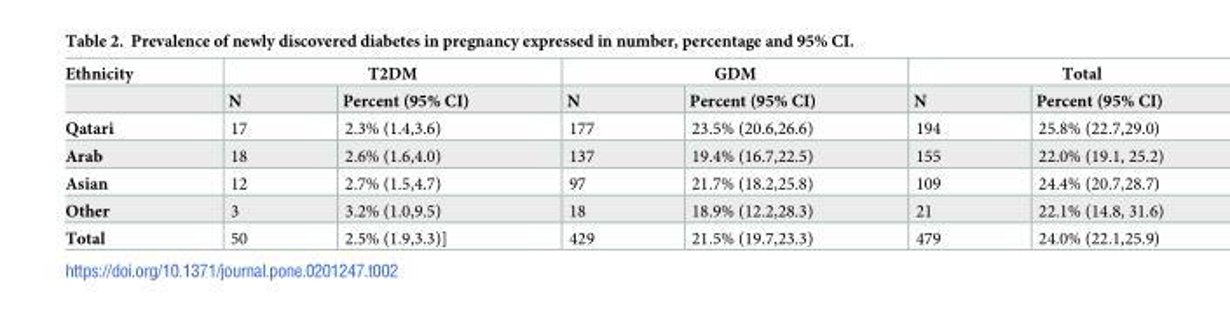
<table><thead><tr><td rowspan="2">Ethnicity</td><td colspan="2">T2DM</td><td colspan="2">GDM</td><td colspan="2">Total</td></tr><tr><td>N</td><td>Percent (95% CI)</td><td>N</td><td>Percent (95% CI)</td><td>N</td><td>Percent (95% CI)</td></tr></thead><tbody><tr><td>Qatari</td><td>17</td><td>2.3% (1.4,3.6)</td><td>177</td><td>23.5% (20.6,26.6)</td><td>194</td><td>25.8% (22.7,29.0)</td></tr><tr><td>Arab</td><td>18</td><td>2.6% (1.6,4.0)</td><td>137</td><td>19.4% (16.7,22.5)</td><td>155</td><td>22.0% (19.1, 25.2)</td></tr><tr><td>Asian</td><td>12</td><td>2.7% (1.5,4.7)</td><td>97</td><td>21.7% (18.2,25.8)</td><td>109</td><td>24.4% (20.7,28.7)</td></tr><tr><td>Other</td><td>3</td><td>3.2% (1.0,9.5)</td><td>18</td><td>18.9% (12.2,28.3)</td><td>21</td><td>22.1% (14.8, 31.6)</td></tr><tr><td>Total</td><td>50</td><td>2.5% (1.9,3.3)]</td><td>429</td><td>21.5% (19.7,23.3)</td><td>479</td><td>24.0% (22.1,25.9)</td></tr></tbody></table>